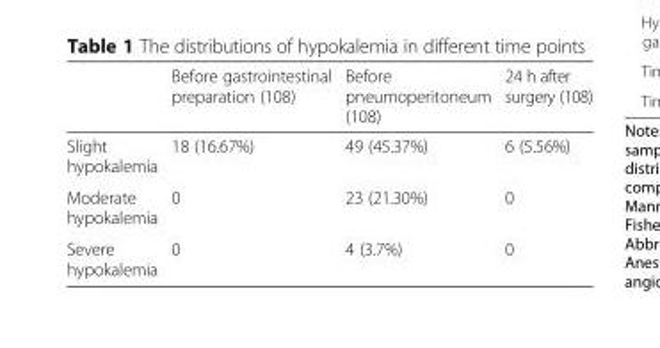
<table><thead><tr><td></td><td>Before gastrointestinal preparation (108)</td><td>Before pneumoperitoneum (108)</td><td>24 h after surgery (108)</td></tr></thead><tbody><tr><td>Slight hypokalemia</td><td>18 (16.67%)</td><td>49 (45.37%)</td><td>6 (5.56%)</td></tr><tr><td>Moderate hypokalemia</td><td>0</td><td>23 (21.30%)</td><td>0</td></tr><tr><td>Severe hypokalemia</td><td>0</td><td>4 (3.7%)</td><td>0</td></tr></tbody></table>